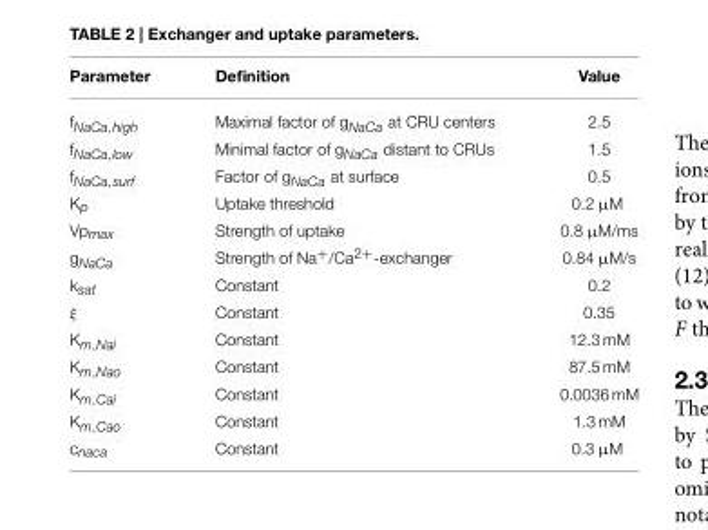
<table><thead><tr><td>Parameter</td><td>Definition</td><td>Value</td></tr></thead><tbody><tr><td>f<sub>NaCa,high</sub></td><td>Maximal factor of g<sub>NaCa</sub> at CRU centers</td><td>2.5</td></tr><tr><td>f<sub>NaCa,low</sub></td><td>Minimal factor of g<sub>NaCa</sub> distant to CRUs</td><td>1.5</td></tr><tr><td>f<sub>NaCa,surf</sub></td><td>Factor of g<sub>NaCa</sub> at surface</td><td>0.5</td></tr><tr><td>K<sub>p</sub></td><td>Uptake threshold</td><td>0.2 µM</td></tr><tr><td>Vp<sub>max</sub></td><td>Strength of uptake</td><td>0.8 µM/ms</td></tr><tr><td>g<sub>NaCa</sub></td><td>Strength of Na+/Ca<sup>2+</sup>-exchanger</td><td>0.84 µM/s</td></tr><tr><td>k<sub>sat</sub></td><td>Constant</td><td>0.2</td></tr><tr><td>ξ</td><td>Constant</td><td>0.35</td></tr><tr><td>K<sub>m,Nai</sub></td><td>Constant</td><td>12.3 mM</td></tr><tr><td>K<sub>m,Nao</sub></td><td>Constant</td><td>87.5 mM</td></tr><tr><td>K<sub>m,Cai</sub></td><td>Constant</td><td>0.0036 mM</td></tr><tr><td>K<sub>m,Cao</sub></td><td>Constant</td><td>1.3 mM</td></tr><tr><td>c<sub>naca</sub></td><td>Constant</td><td>0.3 µM</td></tr></tbody></table>